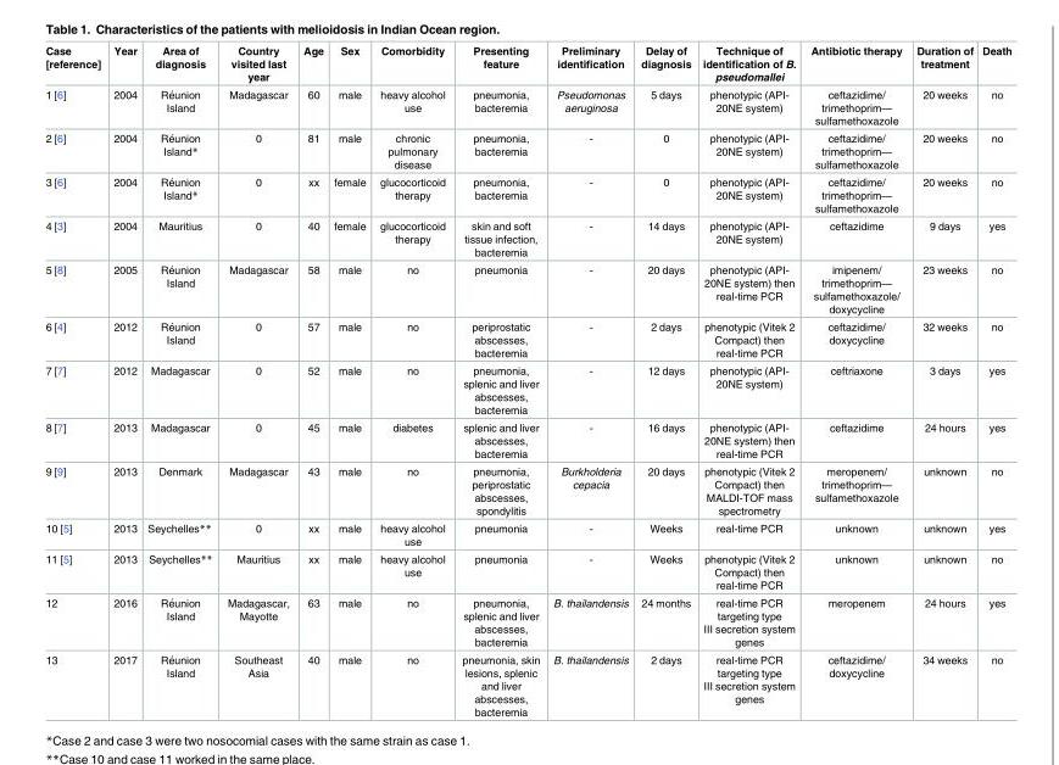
<table><thead><tr><td>Case [reference]</td><td>Year</td><td>Area of diagnosis</td><td>Country visited last year</td><td>Age</td><td>Sex</td><td>Comorbidity</td><td>Presenting feature</td><td>Preliminary identification</td><td>Delay of diagnosis</td><td>Technique of identification of B. pseudomallei</td><td>Antibiotic therapy</td><td>Duration of treatment</td><td>Death</td></tr></thead><tbody><tr><td>1 [6]</td><td>2004</td><td>Re´union Island</td><td>Madagascar</td><td>60</td><td>male</td><td>heavy alcohol use</td><td>pneumonia, bacteremia</td><td>Pseudomonas aeruginosa</td><td>5 days</td><td>phenotypic (API- 20NE system)</td><td>ceftazidime/ trimethoprim— sulfamethoxazole</td><td>20 weeks</td><td>no</td></tr><tr><td>2 [6]</td><td>2004</td><td>Re´union Island*</td><td>0</td><td>81</td><td>male</td><td>chronic pulmonary disease</td><td>pneumonia, bacteremia</td><td>-</td><td>0</td><td>phenotypic (API- 20NE system)</td><td>ceftazidime/ trimethoprim— sulfamethoxazole</td><td>20 weeks</td><td>no</td></tr><tr><td>3 [6]</td><td>2004</td><td>Re´union Island*</td><td>0</td><td>xx</td><td>female</td><td>glucocorticoid therapy</td><td>pneumonia, bacteremia</td><td>-</td><td>0</td><td>phenotypic (API- 20NE system)</td><td>ceftazidime/ trimethoprim— sulfamethoxazole</td><td>20 weeks</td><td>no</td></tr><tr><td>4 [3]</td><td>2004</td><td>Mauritius</td><td>0</td><td>40</td><td>female</td><td>glucocorticoid therapy</td><td>skin and soft tissue infection, bacteremia</td><td>-</td><td>14 days</td><td>phenotypic (API- 20NE system)</td><td>ceftazidime</td><td>9 days</td><td>yes</td></tr><tr><td>5 [8]</td><td>2005</td><td>Re´union Island</td><td>Madagascar</td><td>58</td><td>male</td><td>no</td><td>pneumonia</td><td>-</td><td>20 days</td><td>phenotypic (API- 20NE system) then real-time PCR</td><td>imipenem/ trimethoprim— sulfamethoxazole/ doxycycline</td><td>23 weeks</td><td>no</td></tr><tr><td>6 [4]</td><td>2012</td><td>Re´union Island</td><td>0</td><td>57</td><td>male</td><td>no</td><td>periprostatic abscesses, bacteremia</td><td>-</td><td>2 days</td><td>phenotypic (Vitek 2 Compact) then real-time PCR</td><td>ceftazidime/ doxycycline</td><td>32 weeks</td><td>no</td></tr><tr><td>7 [7]</td><td>2012</td><td>Madagascar</td><td>0</td><td>52</td><td>male</td><td>no</td><td>pneumonia, splenic and liver abscesses, bacteremia</td><td>-</td><td>12 days</td><td>phenotypic (API- 20NE system)</td><td>ceftriaxone</td><td>3 days</td><td>yes</td></tr><tr><td>8 [7]</td><td>2013</td><td>Madagascar</td><td>0</td><td>45</td><td>male</td><td>diabetes</td><td>splenic and liver abscesses, bacteremia</td><td>-</td><td>16 days</td><td>phenotypic (API- 20NE system) then real-time PCR</td><td>ceftazidime</td><td>24 hours</td><td>yes</td></tr><tr><td>9 [9]</td><td>2013</td><td>Denmark</td><td>Madagascar</td><td>43</td><td>male</td><td>no</td><td>pneumonia, periprostatic abscesses, spondylitis</td><td>Burkholderia cepacia</td><td>20 days</td><td>phenotypic (Vitek 2 Compact) then MALDI-TOF mass spectrometry</td><td>meropenem/ trimethoprim— sulfamethoxazole</td><td>unknown</td><td>no</td></tr><tr><td>10 [5]</td><td>2013</td><td>Seychelles**</td><td>0</td><td>xx</td><td>male</td><td>heavy alcohol use</td><td>pneumonia</td><td>-</td><td>Weeks</td><td>real-time PCR</td><td>unknown</td><td>unknown</td><td>yes</td></tr><tr><td>11 [5]</td><td>2013</td><td>Seychelles**</td><td>Mauritius</td><td>xx</td><td>male</td><td>heavy alcohol use</td><td>pneumonia</td><td>-</td><td>Weeks</td><td>phenotypic (Vitek 2 Compact) then real-time PCR</td><td>unknown</td><td>unknown</td><td>no</td></tr><tr><td>12</td><td>2016</td><td>Re´union Island</td><td>Madagascar, Mayotte</td><td>63</td><td>male</td><td>no</td><td>pneumonia, splenic and liver abscesses, bacteremia</td><td>B. thailandensis</td><td>24 months</td><td>real-time PCR targeting type III secretion system genes</td><td>meropenem</td><td>24 hours</td><td>yes</td></tr><tr><td>13</td><td>2017</td><td>Re´union Island</td><td>Southeast Asia</td><td>40</td><td>male</td><td>no</td><td>pneumonia, skin lesions, splenic and liver abscesses, bacteremia</td><td>B. thailandensis</td><td>2 days</td><td>real-time PCR targeting type III secretion system genes</td><td>ceftazidime/ doxycycline</td><td>34 weeks</td><td>no</td></tr></tbody></table>